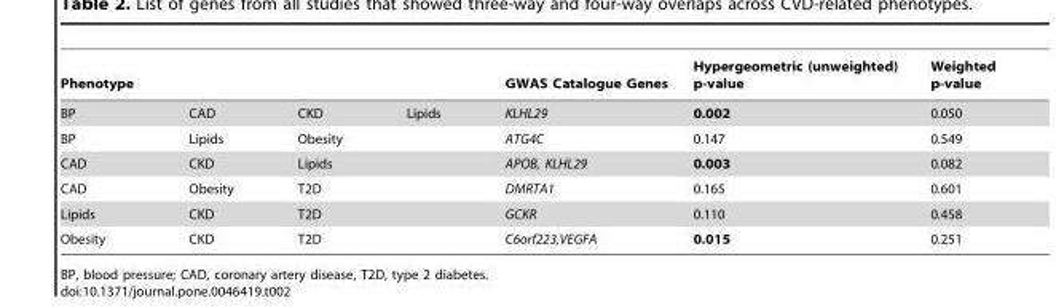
<table><thead><tr><td colspan="4">Phenotype</td><td rowspan="2">GWAS Catalogue Genes KLHL29</td><td rowspan="2">Hypergeometric (unweighted) p-value 0.002</td><td rowspan="2">Weighted p-value 0.050</td></tr><tr><td>BP</td><td>CAD</td><td>CKD</td><td>Lipids</td></tr></thead><tbody><tr><td>BP</td><td>Lipids</td><td>Obesity</td><td></td><td>ATG4C</td><td>0.147</td><td>0.549</td></tr><tr><td>CAD</td><td>CKD</td><td>Lipids</td><td></td><td>APOB, KLHL29</td><td>0.003</td><td>0.082</td></tr><tr><td>CAD</td><td>Obesity</td><td>T2D</td><td></td><td>DMRTA1</td><td>0.165</td><td>0.601</td></tr><tr><td>Lipids</td><td>CKD</td><td>T2D</td><td></td><td>GCKR</td><td>0.110</td><td>0.458</td></tr><tr><td>Obesity</td><td>CKD</td><td>T2D</td><td></td><td>C6orf223,VEGFA</td><td>0.015</td><td>0.251</td></tr></tbody></table>